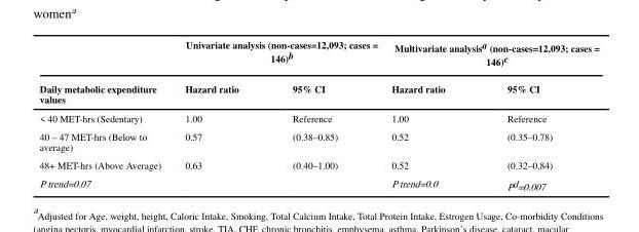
<table><thead><tr><td rowspan="2">Daily metabolic expenditure values</td><td colspan="2">Univariate analysis (non-cases=12,093; cases = 146)<sup>b</sup></td><td colspan="2">Multivariate analysis<sup>a</sup> (non-cases=12,093; cases = 146)<sup>c</sup></td></tr><tr><td>Hazard ratio</td><td>95% CI</td><td>Hazard ratio</td><td>95% CI</td></tr></thead><tbody><tr><td>&lt; 40 MET-hrs (Sedentary)</td><td>1.00</td><td>Reference</td><td>1.00</td><td>Reference</td></tr><tr><td>40 – 47 MET-hrs (Below to average)</td><td>0.57</td><td>(0.38–0.85)</td><td>0.52</td><td>(0.35–0.78)</td></tr><tr><td>48+ MET-hrs (Above Average)</td><td>0.63</td><td>(0.40–1.00)</td><td>0.52</td><td>(0.32–0.84)</td></tr><tr><td>P trend=0.07</td><td></td><td></td><td>P trend=0.0</td><td>P<sup>d</sup>=0.007</td></tr></tbody></table>